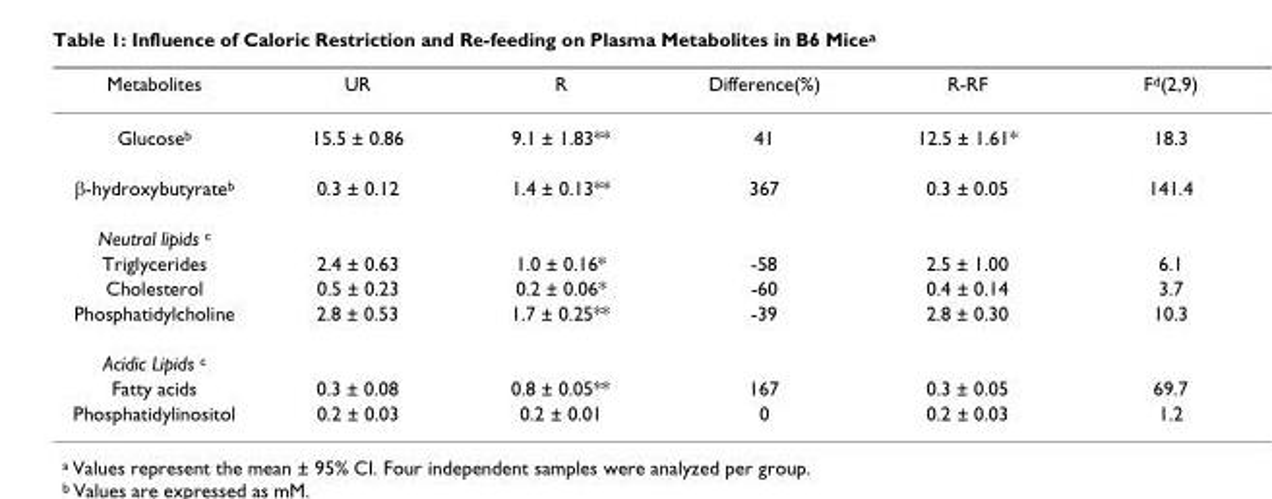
<table><thead><tr><td>Metabolites</td><td>UR</td><td>R</td><td>Difference(%)</td><td>R-RF</td><td>F<sup>d</sup>(2,9)</td></tr></thead><tbody><tr><td>Glucose<sup>b</sup></td><td>15.5 ± 0.86</td><td>9.1 ± 1.83**</td><td>41</td><td>12.5 ± 1.61*</td><td>18.3</td></tr><tr><td>β-hydroxybutyrate<sup>b</sup></td><td>0.3 ± 0.12</td><td>1.4 ± 0.13**</td><td>367</td><td>0.3 ± 0.05</td><td>141.4</td></tr><tr><td colspan="6">Neutral lipids <sup>c</sup></td></tr><tr><td>Triglycerides</td><td>2.4 ± 0.63</td><td>1.0 ± 0.16*</td><td>-58</td><td>2.5 ± 1.00</td><td>6.1</td></tr><tr><td>Cholesterol</td><td>0.5 ± 0.23</td><td>0.2 ± 0.06*</td><td>-60</td><td>0.4 ± 0.14</td><td>3.7</td></tr><tr><td>Phosphatidylcholine</td><td>2.8 ± 0.53</td><td>1.7 ± 0.25**</td><td>-39</td><td>2.8 ± 0.30</td><td>10.3</td></tr><tr><td colspan="6">Acidic Lipids <sup>c</sup></td></tr><tr><td>Fatty acids</td><td>0.3 ± 0.08</td><td>0.8 ± 0.05**</td><td>167</td><td>0.3 ± 0.05</td><td>69.7</td></tr><tr><td>Phosphatidylinositol</td><td>0.2 ± 0.03</td><td>0.2 ± 0.01</td><td>0</td><td>0.2 ± 0.03</td><td>1.2</td></tr></tbody></table>